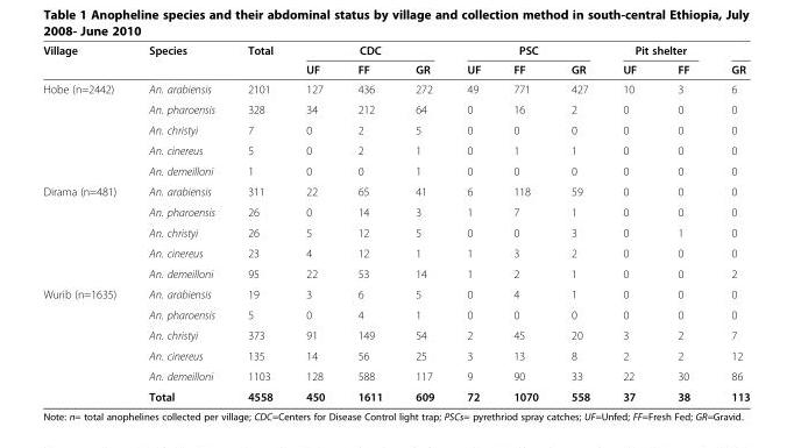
<table><thead><tr><td rowspan="2">Village</td><td rowspan="2">Species</td><td rowspan="2">Total</td><td colspan="3">CDC</td><td colspan="3">PSC</td><td colspan="2">Pit shelter</td><td rowspan="2">GR</td></tr><tr><td>UF</td><td>FF</td><td>GR</td><td>UF</td><td>FF</td><td>GR</td><td>UF</td><td>FF</td></tr></thead><tbody><tr><td rowspan="5">Hobe (n=2442)</td><td>An. arabiensis</td><td>2101</td><td>127</td><td>436</td><td>272</td><td>49</td><td>771</td><td>427</td><td>10</td><td>3</td><td>6</td></tr><tr><td>An. pharoensis</td><td>328</td><td>34</td><td>212</td><td>64</td><td>0</td><td>16</td><td>2</td><td>0</td><td>0</td><td>0</td></tr><tr><td>An. christyi</td><td>7</td><td>0</td><td>2</td><td>5</td><td>0</td><td>0</td><td>0</td><td>0</td><td>0</td><td>0</td></tr><tr><td>An. cinereus</td><td>5</td><td>0</td><td>2</td><td>1</td><td>0</td><td>1</td><td>1</td><td>0</td><td>0</td><td>0</td></tr><tr><td>An. demeilloni</td><td>1</td><td>0</td><td>0</td><td>1</td><td>0</td><td>0</td><td>0</td><td>0</td><td>0</td><td>0</td></tr><tr><td rowspan="5">Dirama (n=481)</td><td>An. arabiensis</td><td>311</td><td>22</td><td>65</td><td>41</td><td>6</td><td>118</td><td>59</td><td>0</td><td>0</td><td>0</td></tr><tr><td>An. pharoensis</td><td>26</td><td>0</td><td>14</td><td>3</td><td>1</td><td>7</td><td>1</td><td>0</td><td>0</td><td>0</td></tr><tr><td>An. christyi</td><td>26</td><td>5</td><td>12</td><td>5</td><td>0</td><td>0</td><td>3</td><td>0</td><td>1</td><td>0</td></tr><tr><td>An. cinereus</td><td>23</td><td>4</td><td>12</td><td>1</td><td>1</td><td>3</td><td>2</td><td>0</td><td>0</td><td>0</td></tr><tr><td>An. demeilloni</td><td>95</td><td>22</td><td>53</td><td>14</td><td>1</td><td>2</td><td>1</td><td>0</td><td>0</td><td>2</td></tr><tr><td rowspan="6">Wurib (n=1635)</td><td>An. arabiensis</td><td>19</td><td>3</td><td>6</td><td>5</td><td>0</td><td>4</td><td>1</td><td>0</td><td>0</td><td>0</td></tr><tr><td>An. pharoensis</td><td>5</td><td>0</td><td>4</td><td>1</td><td>0</td><td>0</td><td>0</td><td>0</td><td>0</td><td>0</td></tr><tr><td>An. christyi</td><td>373</td><td>91</td><td>149</td><td>54</td><td>2</td><td>45</td><td>20</td><td>3</td><td>2</td><td>7</td></tr><tr><td>An. cinereus</td><td>135</td><td>14</td><td>56</td><td>25</td><td>3</td><td>13</td><td>8</td><td>2</td><td>2</td><td>12</td></tr><tr><td>An. demeilloni</td><td>1103</td><td>128</td><td>588</td><td>117</td><td>9</td><td>90</td><td>33</td><td>22</td><td>30</td><td>86</td></tr><tr><td>Total</td><td>4558</td><td>450</td><td>1611</td><td>609</td><td>72</td><td>1070</td><td>558</td><td>37</td><td>38</td><td>113</td></tr></tbody></table>